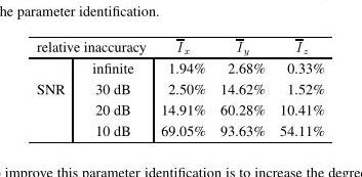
<table><thead><tr><td colspan="2">relative inaccuracy</td><td rowspan="2">Ix 1.94%</td><td rowspan="2">Iy 2.68%</td><td rowspan="2">Iz 0.33%</td></tr><tr><td></td><td>infinite</td></tr></thead><tbody><tr><td rowspan="3">SNR</td><td>30 dB</td><td>2.50%</td><td>14.62%</td><td>1.52%</td></tr><tr><td>20 dB</td><td>14.91%</td><td>60.28%</td><td>10.41%</td></tr><tr><td>10 dB</td><td>69.05%</td><td>93.63%</td><td>54.11%</td></tr></tbody></table>